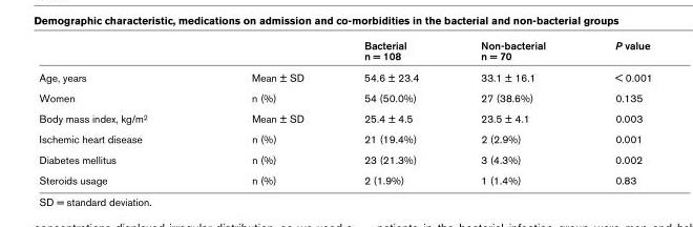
<table><thead><tr><td></td><td></td><td>Bacterial n = 108</td><td>Non-bacterial n = 70</td><td>P value</td></tr></thead><tbody><tr><td>Age, years</td><td>Mean ± SD</td><td>54.6 ± 23.4</td><td>33.1 ± 16.1</td><td>&lt; 0.001</td></tr><tr><td>Women</td><td>n (%)</td><td>54 (50.0%)</td><td>27 (38.6%)</td><td>0.135</td></tr><tr><td>Body mass index, kg/m<sup>2</sup></td><td>Mean ± SD</td><td>25.4 ± 4.5</td><td>23.5 ± 4.1</td><td>0.003</td></tr><tr><td>Ischemic heart disease</td><td>n (%)</td><td>21 (19.4%)</td><td>2 (2.9%)</td><td>0.001</td></tr><tr><td>Diabetes mellitus</td><td>n (%)</td><td>23 (21.3%)</td><td>3 (4.3%)</td><td>0.002</td></tr><tr><td>Steroids usage</td><td>n (%)</td><td>2 (1.9%)</td><td>1 (1.4%)</td><td>0.83</td></tr></tbody></table>